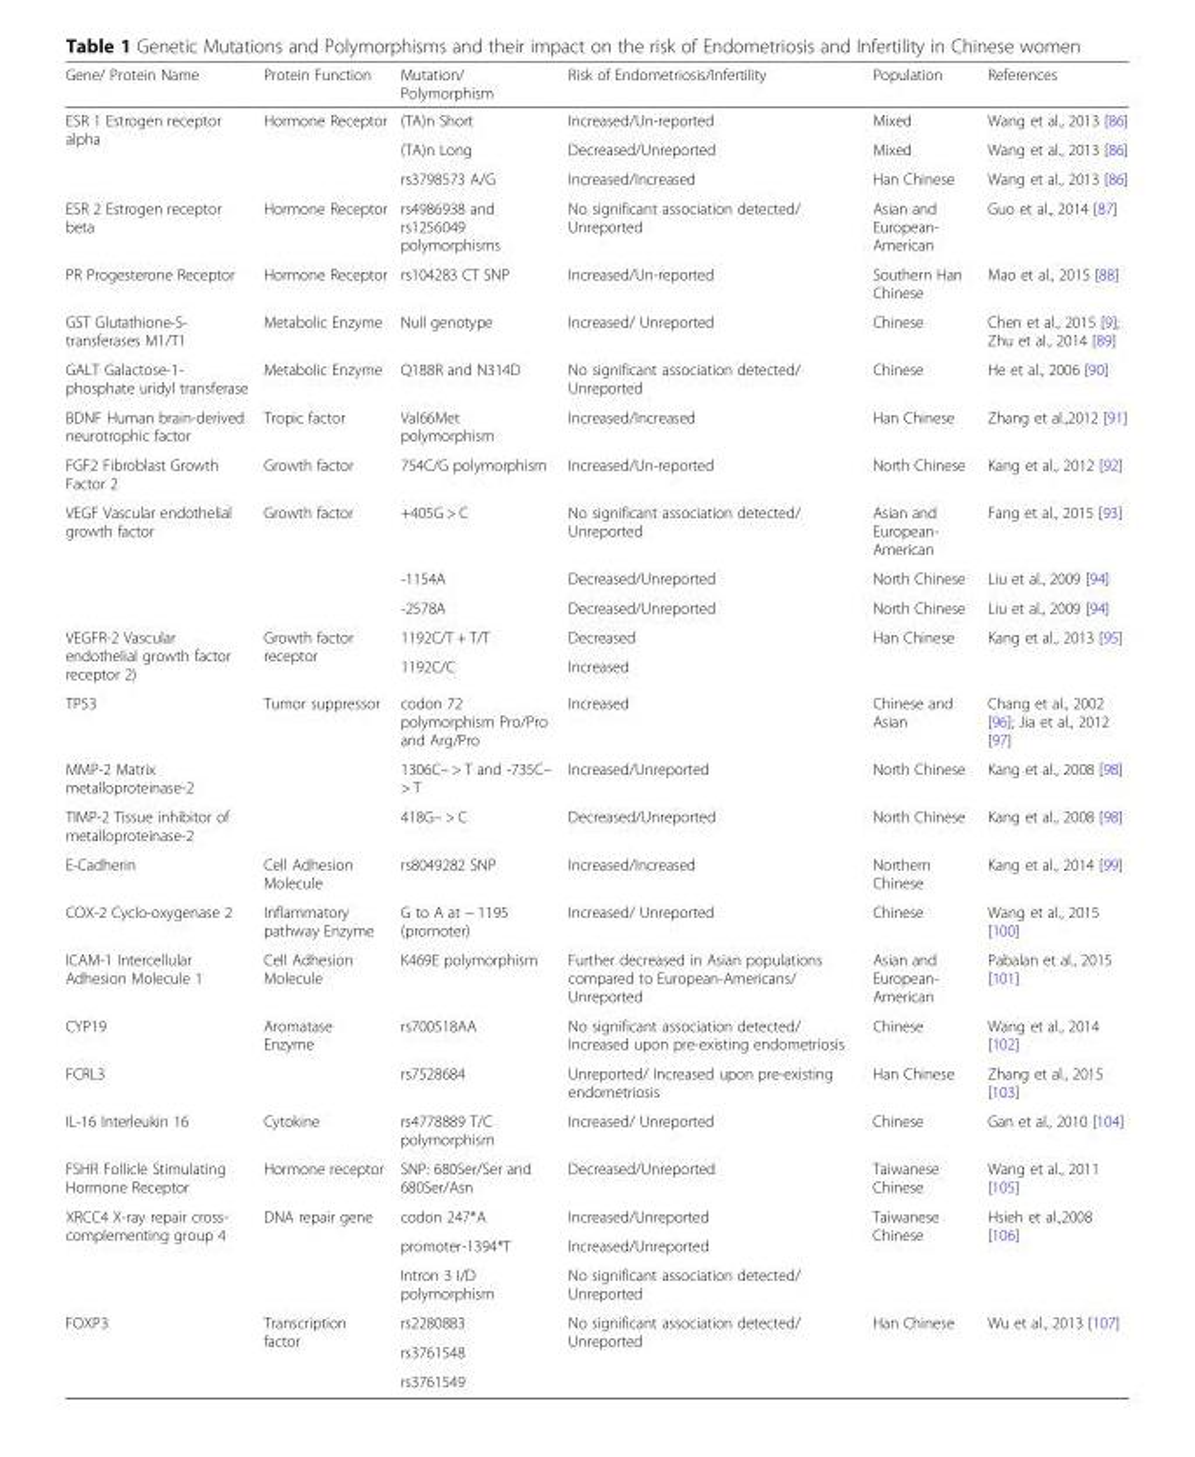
<table><thead><tr><td>Gene/ Protein Name</td><td>Protein Function</td><td>Mutation/ Polymorphism</td><td>Risk of Endometriosis/Infertility</td><td>Population</td><td>References</td></tr></thead><tbody><tr><td rowspan="3">ESR 1 Estrogen receptor alpha</td><td rowspan="3">Hormone Receptor</td><td>(TA)n Short</td><td>Increased/Un-reported</td><td>Mixed</td><td>Wang et al., 2013 [86]</td></tr><tr><td>(TA)n Long</td><td>Decreased/Unreported</td><td>Mixed</td><td>Wang et al., 2013 [86]</td></tr><tr><td>rs3798573 A/G</td><td>Increased/Increased</td><td>Han Chinese</td><td>Wang et al., 2013 [86]</td></tr><tr><td>ESR 2 Estrogen receptor beta</td><td>Hormone Receptor</td><td>rs4986938 and rs1256049 polymorphisms</td><td>No significant association detected/ Unreported</td><td>Asian and European- American</td><td>Guo et al., 2014 [87]</td></tr><tr><td>PR Progesterone Receptor</td><td>Hormone Receptor</td><td>rs104283 CT SNP</td><td>Increased/Un-reported</td><td>Southern Han Chinese</td><td>Mao et al., 2015 [88]</td></tr><tr><td>GST Glutathione-S- transferases M1/T1</td><td>Metabolic Enzyme</td><td>Null genotype</td><td>Increased/ Unreported</td><td>Chinese</td><td>Chen et al., 2015 [9]; Zhu et al., 2014 [89]</td></tr><tr><td>GALT Galactose-1- phosphate uridyl transferase</td><td>Metabolic Enzyme</td><td>Q188R and N314D</td><td>No significant association detected/ Unreported</td><td>Chinese</td><td>He et al., 2006 [90]</td></tr><tr><td>BDNF Human brain-derived neurotrophic factor</td><td>Tropic factor</td><td>Val66Met polymorphism</td><td>Increased/Increased</td><td>Han Chinese</td><td>Zhang et al.,2012 [91]</td></tr><tr><td>FGF2 Fibroblast Growth Factor 2</td><td>Growth factor</td><td>754C/G polymorphism</td><td>Increased/Un-reported</td><td>North Chinese</td><td>Kang et al., 2012 [92]</td></tr><tr><td rowspan="3">VEGF Vascular endothelial growth factor</td><td rowspan="3">Growth factor</td><td>+405G &gt; C</td><td>No significant association detected/ Unreported</td><td>Asian and European- American</td><td>Fang et al., 2015 [93]</td></tr><tr><td>-1154A</td><td>Decreased/Unreported</td><td>North Chinese</td><td>Liu et al., 2009 [94]</td></tr><tr><td>-2578A</td><td>Decreased/Unreported</td><td>North Chinese</td><td>Liu et al., 2009 [94]</td></tr><tr><td rowspan="2">VEGFR-2 Vascular endothelial growth factor receptor 2)</td><td rowspan="2">Growth factor receptor</td><td>1192C/T + T/T</td><td>Decreased</td><td rowspan="2">Han Chinese</td><td rowspan="2">Kang et al., 2013 [95]</td></tr><tr><td>1192C/C</td><td>Increased</td></tr><tr><td>TP53</td><td>Tumor suppressor</td><td>codon 72 polymorphism Pro/Pro and Arg/Pro</td><td>Increased</td><td>Chinese and Asian</td><td>Chang et al., 2002 [96]; Jia et al., 2012 [97]</td></tr><tr><td>MMP-2 Matrix metalloproteinase-2</td><td></td><td>1306C– &gt; T and -735C– &gt; T</td><td>Increased/Unreported</td><td>North Chinese</td><td>Kang et al., 2008 [98]</td></tr><tr><td>TIMP-2 Tissue inhibitor of metalloproteinase-2</td><td></td><td>418G– &gt; C</td><td>Decreased/Unreported</td><td>North Chinese</td><td>Kang et al., 2008 [98]</td></tr><tr><td>E-Cadherin</td><td>Cell Adhesion Molecule</td><td>rs8049282 SNP</td><td>Increased/Increased</td><td>Northern Chinese</td><td>Kang et al., 2014 [99]</td></tr><tr><td>COX-2 Cyclo-oxygenase 2</td><td>Inflammatory pathway Enzyme</td><td>G to A at − 1195 (promoter)</td><td>Increased/ Unreported</td><td>Chinese</td><td>Wang et al., 2015 [100]</td></tr><tr><td>ICAM-1 Intercellular Adhesion Molecule 1</td><td>Cell Adhesion Molecule</td><td>K469E polymorphism</td><td>Further decreased in Asian populations compared to European-Americans/ Unreported</td><td>Asian and European- American</td><td>Pabalan et al., 2015 [101]</td></tr><tr><td>CYP19</td><td>Aromatase Enzyme</td><td>rs700518AA</td><td>No significant association detected/ Increased upon pre-existing endometriosis</td><td>Chinese</td><td>Wang et al., 2014 [102]</td></tr><tr><td>FCRL3</td><td></td><td>rs7528684</td><td>Unreported/ Increased upon pre-existing endometriosis</td><td>Han Chinese</td><td>Zhang et al., 2015 [103]</td></tr><tr><td>IL-16 Interleukin 16</td><td>Cytokine</td><td>rs4778889 T/C polymorphism</td><td>Increased/ Unreported</td><td>Chinese</td><td>Gan et al., 2010 [104]</td></tr><tr><td>FSHR Follicle Stimulating Hormone Receptor</td><td>Hormone receptor</td><td>SNP: 680Ser/Ser and 680Ser/Asn</td><td>Decreased/Unreported</td><td>Taiwanese Chinese</td><td>Wang et al., 2011 [105]</td></tr><tr><td rowspan="3">XRCC4 X-ray repair cross- complementing group 4</td><td rowspan="3">DNA repair gene</td><td>codon 247*A</td><td>Increased/Unreported</td><td rowspan="3">Taiwanese Chinese</td><td rowspan="3">Hsieh et al.,2008 [106]</td></tr><tr><td>promoter-1394*T</td><td>Increased/Unreported</td></tr><tr><td>Intron 3 I/D polymorphism</td><td>No significant association detected/ Unreported</td></tr><tr><td rowspan="3">FOXP3</td><td rowspan="3">Transcription factor</td><td>rs2280883</td><td rowspan="3">No significant association detected/ Unreported</td><td rowspan="3">Han Chinese</td><td rowspan="3">Wu et al., 2013 [107]</td></tr><tr><td>rs3761548</td></tr><tr><td>rs3761549</td></tr></tbody></table>